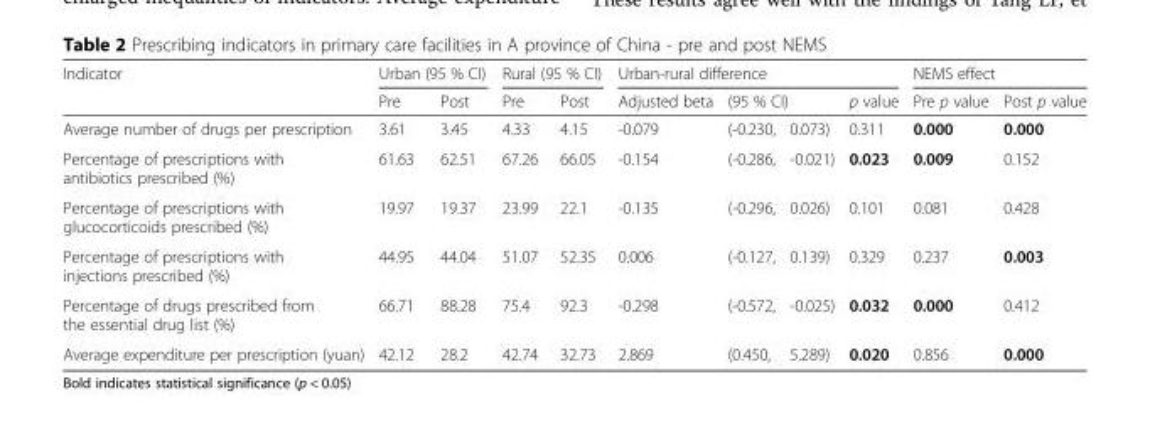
<table><thead><tr><td rowspan="3">Indicator Average number of drugs per prescription</td><td colspan="2">Urban (95 % CI)</td><td colspan="2">Rural (95 % CI)</td><td colspan="4">Urban-rural difference</td><td colspan="2">NEMS effect</td></tr><tr><td rowspan="2">Pre 3.61</td><td rowspan="2">Post 3.45</td><td rowspan="2">Pre 4.33</td><td rowspan="2">Post 4.15</td><td rowspan="2">Adjusted beta -0.079</td><td colspan="2">(95 % CI)</td><td rowspan="2">p value 0.311</td><td rowspan="2">Pre p value 0.000</td><td rowspan="2">Post p value 0.000</td></tr><tr><td>(-0.230,</td><td>0.073)</td></tr></thead><tbody><tr><td>Percentage of prescriptions with antibiotics prescribed (%)</td><td>61.63</td><td>62.51</td><td>67.26</td><td>66.05</td><td>-0.154</td><td>(-0.286,</td><td>-0.021)</td><td>0.023</td><td>0.009</td><td>0.152</td></tr><tr><td>Percentage of prescriptions with glucocorticoids prescribed (%)</td><td>19.97</td><td>19.37</td><td>23.99</td><td>22.1</td><td>-0.135</td><td>(-0.296,</td><td>0.026)</td><td>0.101</td><td>0.081</td><td>0.428</td></tr><tr><td>Percentage of prescriptions with injections prescribed (%)</td><td>44.95</td><td>44.04</td><td>51.07</td><td>52.35</td><td>0.006</td><td>(-0.127,</td><td>0.139)</td><td>0.329</td><td>0.237</td><td>0.003</td></tr><tr><td>Percentage of drugs prescribed from the essential drug list (%)</td><td>66.71</td><td>88.28</td><td>75.4</td><td>92.3</td><td>-0.298</td><td>(-0.572,</td><td>-0.025)</td><td>0.032</td><td>0.000</td><td>0.412</td></tr><tr><td>Average expenditure per prescription (yuan)</td><td>42.12</td><td>28.2</td><td>42.74</td><td>32.73</td><td>2.869</td><td>(0.450,</td><td>5.289)</td><td>0.020</td><td>0.856</td><td>0.000</td></tr></tbody></table>